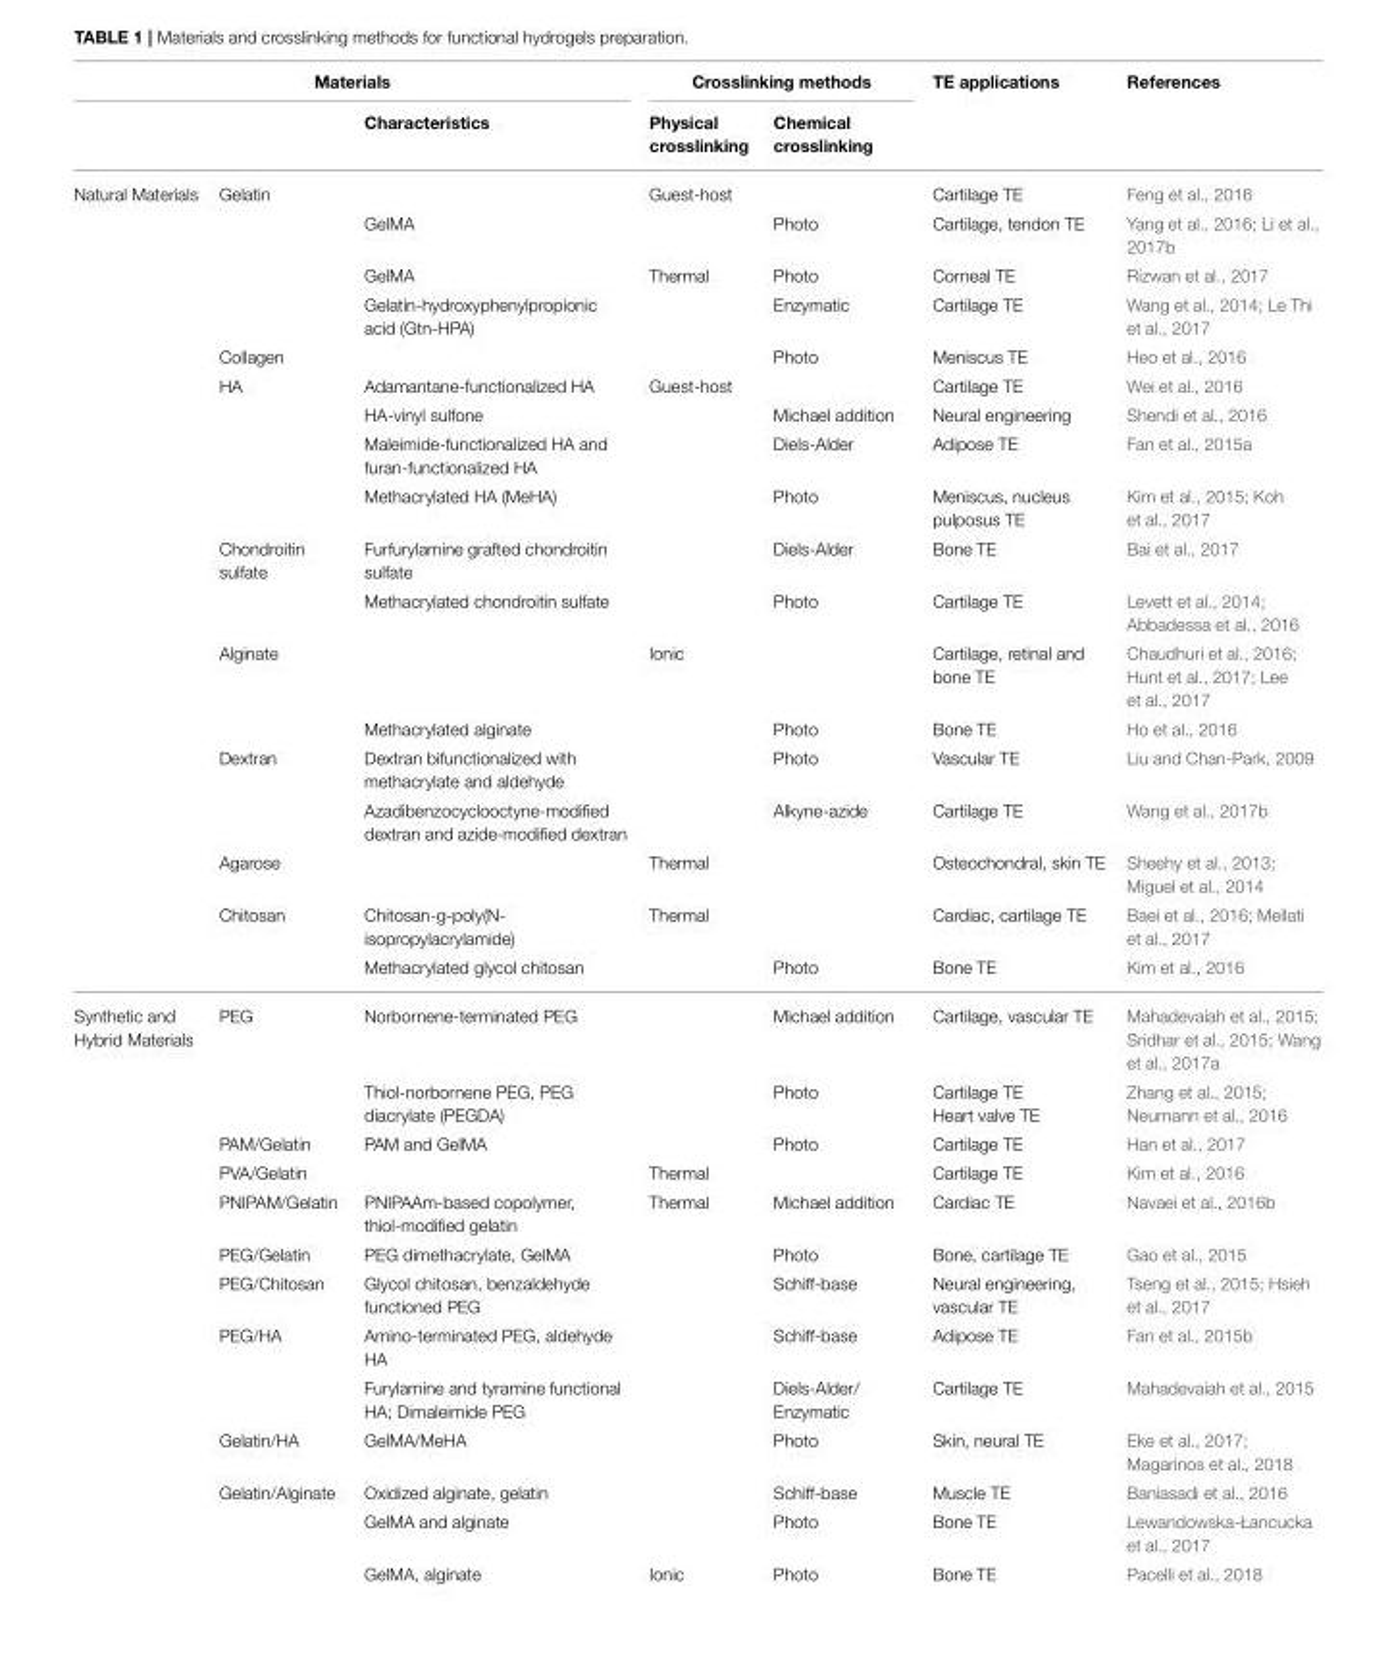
<table><thead><tr><td colspan="3">Materials</td><td colspan="2">Crosslinking methods</td><td rowspan="2">TE applications</td><td rowspan="2">References</td></tr><tr><td></td><td></td><td>Characteristics</td><td>Physical crosslinking</td><td>Chemical crosslinking</td></tr></thead><tbody><tr><td rowspan="18">Natural Materials</td><td>Gelatin</td><td></td><td>Guest-host</td><td></td><td>Cartilage TE</td><td>Feng et al., 2016</td></tr><tr><td></td><td>GelMA</td><td></td><td>Photo</td><td>Cartilage, tendon TE</td><td>Yang et al., 2016; Li et al., 2017b</td></tr><tr><td></td><td>GelMA</td><td>Thermal</td><td>Photo</td><td>Corneal TE</td><td>Rizwan et al., 2017</td></tr><tr><td></td><td>Gelatin-hydroxyphenylpropionic acid (Gtn-HPA)</td><td></td><td>Enzymatic</td><td>Cartilage TE</td><td>Wang et al., 2014; Le Thi et al., 2017</td></tr><tr><td>Collagen</td><td></td><td></td><td>Photo</td><td>Meniscus TE</td><td>Heo et al., 2016</td></tr><tr><td>HA</td><td>Adamantane-functionalized HA</td><td>Guest-host</td><td></td><td>Cartilage TE</td><td>Wei et al., 2016</td></tr><tr><td></td><td>HA-vinyl sulfone</td><td></td><td>Michael addition</td><td>Neural engineering</td><td>Shendi et al., 2016</td></tr><tr><td></td><td>Maleimide-functionalized HA and furan-functionalized HA</td><td></td><td>Diels-Alder</td><td>Adipose TE</td><td>Fan et al., 2015a</td></tr><tr><td></td><td>Methacrylated HA (MeHA)</td><td></td><td>Photo</td><td>Meniscus, nucleus pulposus TE</td><td>Kim et al., 2015; Koh et al., 2017</td></tr><tr><td>Chondroitin sulfate</td><td>Furfurylamine grafted chondroitin sulfate</td><td></td><td>Diels-Alder</td><td>Bone TE</td><td>Bai et al., 2017</td></tr><tr><td></td><td>Methacrylated chondroitin sulfate</td><td></td><td>Photo</td><td>Cartilage TE</td><td>Levett et al., 2014; Abbadessa et al., 2016</td></tr><tr><td>Alginate</td><td></td><td>Ionic</td><td></td><td>Cartilage, retinal and bone TE</td><td>Chaudhuri et al., 2016; Hunt et al., 2017; Lee et al., 2017</td></tr><tr><td></td><td>Methacrylated alginate</td><td></td><td>Photo</td><td>Bone TE</td><td>Ho et al., 2016</td></tr><tr><td>Dextran</td><td>Dextran bifunctionalized with methacrylate and aldehyde</td><td></td><td>Photo</td><td>Vascular TE</td><td>Liu and Chan-Park, 2009</td></tr><tr><td></td><td>Azadibenzocyclooctyne-modified dextran and azide-modified dextran</td><td></td><td>Alkyne-azide</td><td>Cartilage TE</td><td>Wang et al., 2017b</td></tr><tr><td>Agarose</td><td></td><td>Thermal</td><td></td><td>Osteochondral, skin TE</td><td>Sheehy et al., 2013; Miguel et al., 2014</td></tr><tr><td>Chitosan</td><td>Chitosan-g-poly(N- isopropylacrylamide)</td><td>Thermal</td><td></td><td>Cardiac, cartilage TE</td><td>Baei et al., 2016; Mellati et al., 2017</td></tr><tr><td></td><td>Methacrylated glycol chitosan</td><td></td><td>Photo</td><td>Bone TE</td><td>Kim et al., 2016</td></tr><tr><td rowspan="13">Synthetic and Hybrid Materials</td><td>PEG</td><td>Norbornene-terminated PEG</td><td></td><td>Michael addition</td><td>Cartilage, vascular TE</td><td>Mahadevaiah et al., 2015; Sridhar et al., 2015; Wang et al., 2017a</td></tr><tr><td></td><td>Thiol-norbornene PEG, PEG diacrylate (PEGDA)</td><td></td><td>Photo</td><td>Cartilage TE Heart valve TE</td><td>Zhang et al., 2015; Neumann et al., 2016</td></tr><tr><td>PAM/Gelatin</td><td>PAM and GelMA</td><td></td><td>Photo</td><td>Cartilage TE</td><td>Han et al., 2017</td></tr><tr><td>PVA/Gelatin</td><td></td><td>Thermal</td><td></td><td>Cartilage TE</td><td>Kim et al., 2016</td></tr><tr><td>PNIPAM/Gelatin</td><td>PNIPAAm-based copolymer, thiol-modified gelatin</td><td>Thermal</td><td>Michael addition</td><td>Cardiac TE</td><td>Navaei et al., 2016b</td></tr><tr><td>PEG/Gelatin</td><td>PEG dimethacrylate, GelMA</td><td></td><td>Photo</td><td>Bone, cartilage TE</td><td>Gao et al., 2015</td></tr><tr><td>PEG/Chitosan</td><td>Glycol chitosan, benzaldehyde functioned PEG</td><td></td><td>Schiff-base</td><td>Neural engineering, vascular TE</td><td>Tseng et al., 2015; Hsieh et al., 2017</td></tr><tr><td>PEG/HA</td><td>Amino-terminated PEG, aldehyde HA</td><td></td><td>Schiff-base</td><td>Adipose TE</td><td>Fan et al., 2015b</td></tr><tr><td></td><td>Furylamine and tyramine functional HA; Dimaleimide PEG</td><td></td><td>Diels-Alder/ Enzymatic</td><td>Cartilage TE</td><td>Mahadevaiah et al., 2015</td></tr><tr><td>Gelatin/HA</td><td>GelMA/MeHA</td><td></td><td>Photo</td><td>Skin, neural TE</td><td>Eke et al., 2017; Magarinos et al., 2018</td></tr><tr><td>Gelatin/Alginate</td><td>Oxidized alginate, gelatin</td><td></td><td>Schiff-base</td><td>Muscle TE</td><td>Baniasadi et al., 2016</td></tr><tr><td></td><td>GelMA and alginate</td><td></td><td>Photo</td><td>Bone TE</td><td>Lewandowska-Łancucka et al., 2017</td></tr><tr><td></td><td>GelMA, alginate</td><td>Ionic</td><td>Photo</td><td>Bone TE</td><td>Pacelli et al., 2018</td></tr></tbody></table>